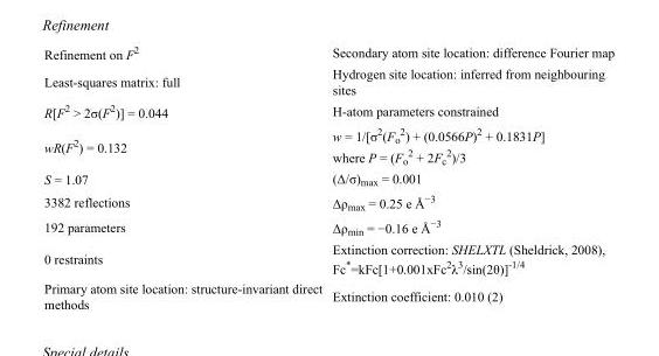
<table><tbody><tr><td>Refinement on F<sup>2</sup></td><td>Secondary atom site location: difference Fourier map</td></tr><tr><td>Least-squares matrix: full</td><td>Hydrogen site location: inferred from neighbouring sites</td></tr><tr><td>R[F<sup>2</sup> &gt; 2σ(F<sup>2</sup>)] = 0.044</td><td>H-atom parameters constrained</td></tr><tr><td>wR(F<sup>2</sup>) = 0.132</td><td>w = 1/[σ<sup>2</sup>(F<sub>o</sub> <sup>2</sup>) + (0.0566P)<sup>2</sup> + 0.1831P] where P = (F<sub>o</sub> <sup>2</sup> + 2F<sub>c</sub> <sup>2</sup>)/3</td></tr><tr><td>S = 1.07</td><td>(Δ/σ)<sub>max</sub> = 0.001</td></tr><tr><td>3382 reflections</td><td>Δρ<sub>max</sub> = 0.25 e Å<sup>−3</sup></td></tr><tr><td>192 parameters</td><td>Δρ<sub>min</sub> = −0.16 e Å<sup>−3</sup></td></tr><tr><td>0 restraints</td><td>Extinction correction: SHELXTL (Sheldrick, 2008), Fc*=kFc[1+0.001xFc<sup>2</sup>λ<sup>3</sup>/sin(2θ)]<sup>-1/4</sup></td></tr><tr><td>Primary atom site location: structure-invariant direct methods</td><td>Extinction coefficient: 0.010 (2)</td></tr></tbody></table>